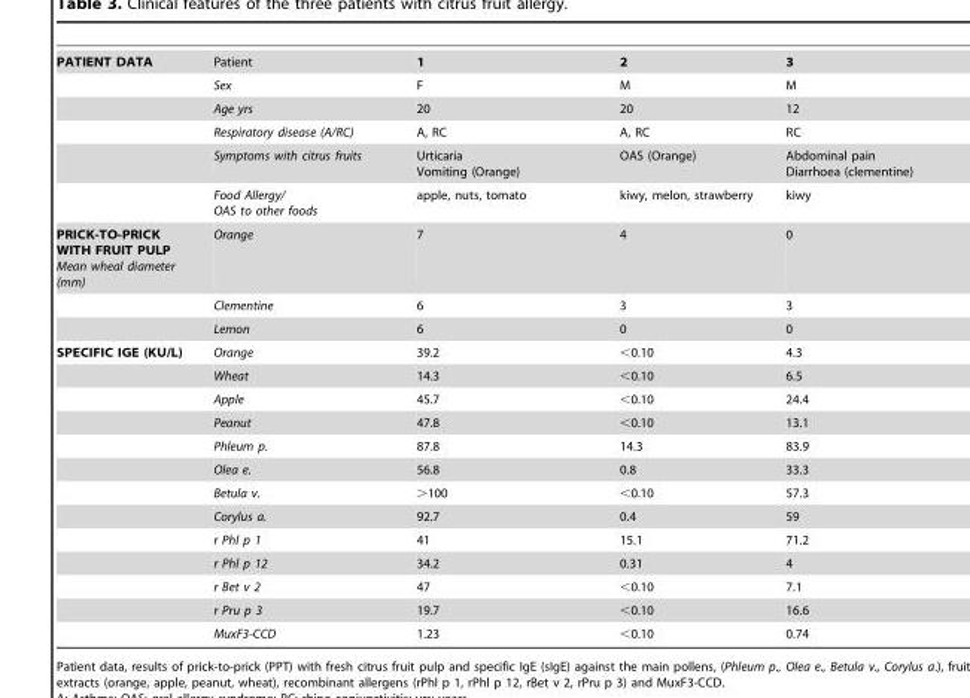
<table><tbody><tr><td rowspan="6">PATIENT DATA</td><td>Patient</td><td>1</td><td>2</td><td>3</td></tr><tr><td>Sex</td><td>F</td><td>M</td><td>M</td></tr><tr><td>Age yrs</td><td>20</td><td>20</td><td>12</td></tr><tr><td>Respiratory disease (A/RC)</td><td>A, RC</td><td>A, RC</td><td>RC</td></tr><tr><td>Symptoms with citrus fruits</td><td>Urticaria Vomiting (Orange)</td><td>OAS (Orange)</td><td>Abdominal pain Diarrhoea (clementine)</td></tr><tr><td>Food Allergy/ OAS to other foods</td><td>apple, nuts, tomato</td><td>kiwy, melon, strawberry</td><td>kiwy</td></tr><tr><td rowspan="3">PRICK-TO-PRICK WITH FRUIT PULP Mean wheal diameter (mm)</td><td>Orange</td><td>7</td><td>4</td><td>0</td></tr><tr><td>Clementine</td><td>6</td><td>3</td><td>3</td></tr><tr><td>Lemon</td><td>6</td><td>0</td><td>0</td></tr><tr><td rowspan="13">SPECIFIC IGE (KU/L)</td><td>Orange</td><td>39.2</td><td>&lt;0.10</td><td>4.3</td></tr><tr><td>Wheat</td><td>14.3</td><td>&lt;0.10</td><td>6.5</td></tr><tr><td>Apple</td><td>45.7</td><td>&lt;0.10</td><td>24.4</td></tr><tr><td>Peanut</td><td>47.8</td><td>&lt;0.10</td><td>13.1</td></tr><tr><td>Phleum p.</td><td>87.8</td><td>14.3</td><td>83.9</td></tr><tr><td>Olea e.</td><td>56.8</td><td>0.8</td><td>33.3</td></tr><tr><td>Betula v.</td><td>&gt;100</td><td>&lt;0.10</td><td>57.3</td></tr><tr><td>Corylus a.</td><td>92.7</td><td>0.4</td><td>59</td></tr><tr><td>r Phl p 1</td><td>41</td><td>15.1</td><td>71.2</td></tr><tr><td>r Phl p 12</td><td>34.2</td><td>0.31</td><td>4</td></tr><tr><td>r Bet v 2</td><td>47</td><td>&lt;0.10</td><td>7.1</td></tr><tr><td>r Pru p 3</td><td>19.7</td><td>&lt;0.10</td><td>16.6</td></tr><tr><td>MuxF3-CCD</td><td>1.23</td><td>&lt;0.10</td><td>0.74</td></tr></tbody></table>